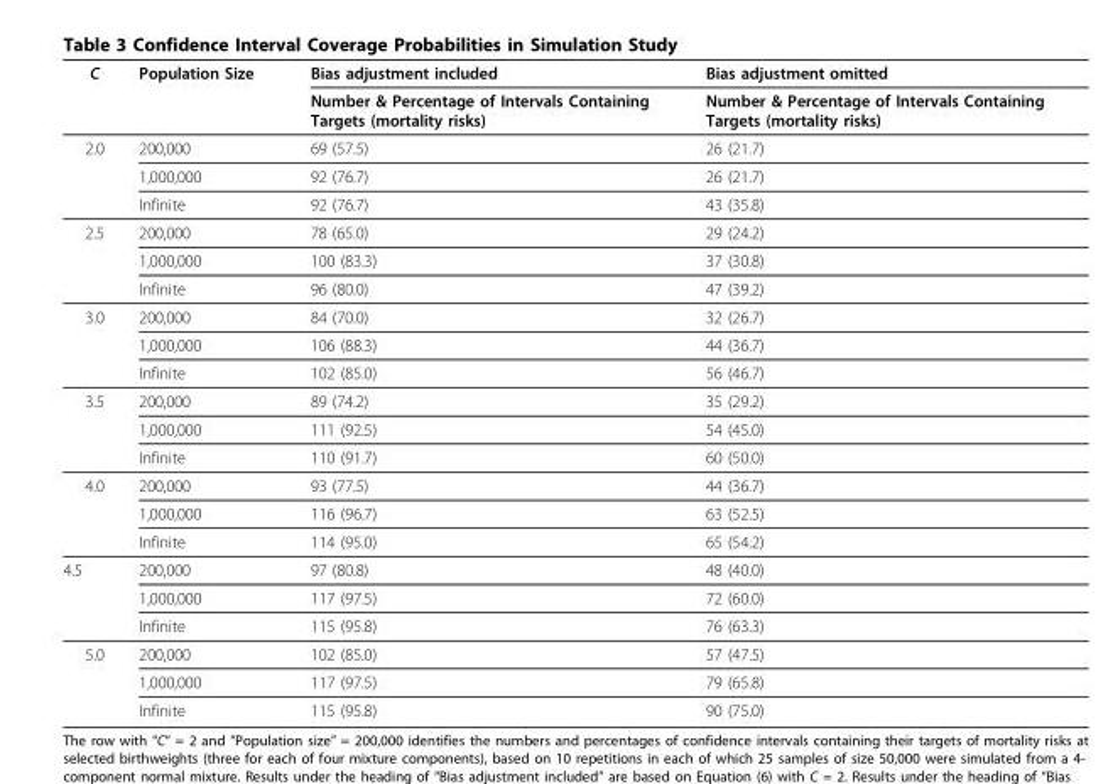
<table><thead><tr><td rowspan="2">C</td><td rowspan="2">Population Size</td><td rowspan="2">Bias adjustment included Number &amp; Percentage of Intervals Containing Targets (mortality risks)</td><td rowspan="2">Bias adjustment omitted Number &amp; Percentage of Intervals Containing Targets (mortality risks)</td></tr><tr></tr></thead><tbody><tr><td rowspan="3">2.0</td><td>200,000</td><td>69 (57.5)</td><td>26 (21.7)</td></tr><tr><td>1,000,000</td><td>92 (76.7)</td><td>26 (21.7)</td></tr><tr><td>Infinite</td><td>92 (76.7)</td><td>43 (35.8)</td></tr><tr><td rowspan="3">2.5</td><td>200,000</td><td>78 (65.0)</td><td>29 (24.2)</td></tr><tr><td>1,000,000</td><td>100 (83.3)</td><td>37 (30.8)</td></tr><tr><td>Infinite</td><td>96 (80.0)</td><td>47 (39.2)</td></tr><tr><td rowspan="3">3.0</td><td>200,000</td><td>84 (70.0)</td><td>32 (26.7)</td></tr><tr><td>1,000,000</td><td>106 (88.3)</td><td>44 (36.7)</td></tr><tr><td>Infinite</td><td>102 (85.0)</td><td>56 (46.7)</td></tr><tr><td rowspan="3">3.5</td><td>200,000</td><td>89 (74.2)</td><td>35 (29.2)</td></tr><tr><td>1,000,000</td><td>111 (92.5)</td><td>54 (45.0)</td></tr><tr><td>Infinite</td><td>110 (91.7)</td><td>60 (50.0)</td></tr><tr><td rowspan="3">4.0</td><td>200,000</td><td>93 (77.5)</td><td>44 (36.7)</td></tr><tr><td>1,000,000</td><td>116 (96.7)</td><td>63 (52.5)</td></tr><tr><td>Infinite</td><td>114 (95.0)</td><td>65 (54.2)</td></tr><tr><td rowspan="3">4.5</td><td>200,000</td><td>97 (80.8)</td><td>48 (40.0)</td></tr><tr><td>1,000,000</td><td>117 (97.5)</td><td>72 (60.0)</td></tr><tr><td>Infinite</td><td>115 (95.8)</td><td>76 (63.3)</td></tr><tr><td rowspan="3">5.0</td><td>200,000</td><td>102 (85.0)</td><td>57 (47.5)</td></tr><tr><td>1,000,000</td><td>117 (97.5)</td><td>79 (65.8)</td></tr><tr><td>Infinite</td><td>115 (95.8)</td><td>90 (75.0)</td></tr></tbody></table>